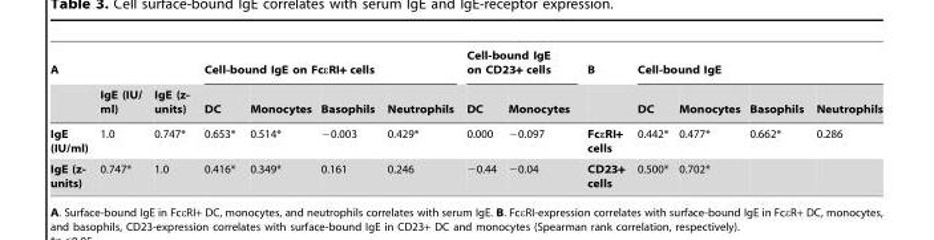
<table><thead><tr><td rowspan="2">A</td><td rowspan="2">IgE (IU/ ml)</td><td rowspan="2">IgE (z- units)</td><td colspan="4">Cell-bound IgE on FcεRI+ cells</td><td colspan="2">Cell-bound IgE on CD23+ cells</td><td rowspan="2">B</td><td colspan="4">Cell-bound IgE</td></tr><tr><td>DC</td><td>Monocytes</td><td>Basophils</td><td>Neutrophils</td><td>DC</td><td>Monocytes</td><td>DC</td><td>Monocytes</td><td>Basophils</td><td>Neutrophils</td></tr></thead><tbody><tr><td>IgE (IU/ml)</td><td>1.0</td><td>0.747*</td><td>0.653*</td><td>0.514*</td><td>−0.003</td><td>0.429*</td><td>0.000</td><td>−0.097</td><td>FcεRI+ cells</td><td>0.442*</td><td>0.477*</td><td>0.662*</td><td>0.286</td></tr><tr><td>IgE (z- units)</td><td>0.747*</td><td>1.0</td><td>0.416*</td><td>0.349*</td><td>0.161</td><td>0.246</td><td>−0.44</td><td>−0.04</td><td>CD23+ cells</td><td>0.500*</td><td>0.702*</td><td></td><td></td></tr></tbody></table>